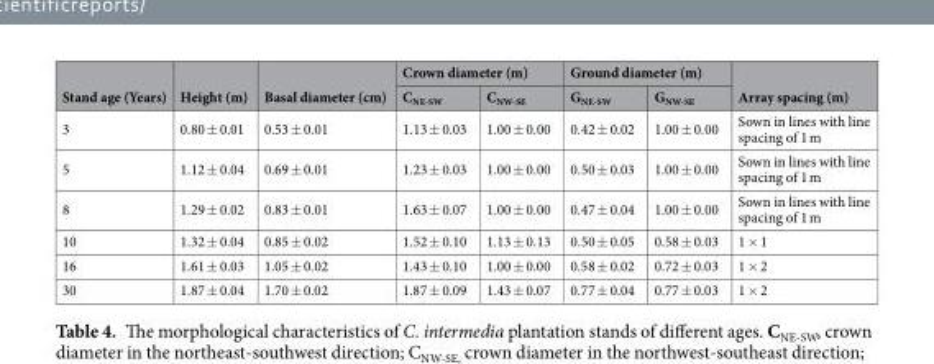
<table><thead><tr><td rowspan="2">Stand age (Years)</td><td rowspan="2">Height (m)</td><td rowspan="2">Basal diameter (cm)</td><td colspan="2">Crown diameter (m)</td><td colspan="2">Ground diameter (m)</td><td rowspan="2">Array spacing (m)</td></tr><tr><td>C<sub>NE-SW</sub></td><td>C<sub>NW-SE</sub></td><td>G<sub>NE-SW</sub></td><td>G<sub>NW-SE</sub></td></tr></thead><tbody><tr><td>3</td><td>0.80 ± 0.01</td><td>0.53 ± 0.01</td><td>1.13 ± 0.03</td><td>1.00 ± 0.00</td><td>0.42 ± 0.02</td><td>1.00 ± 0.00</td><td>Sown in lines with line spacing of 1 m</td></tr><tr><td>5</td><td>1.12 ± 0.04</td><td>0.69 ± 0.01</td><td>1.23 ± 0.03</td><td>1.00 ± 0.00</td><td>0.50 ± 0.03</td><td>1.00 ± 0.00</td><td>Sown in lines with line spacing of 1 m</td></tr><tr><td>8</td><td>1.29 ± 0.02</td><td>0.83 ± 0.01</td><td>1.63 ± 0.07</td><td>1.00 ± 0.00</td><td>0.47 ± 0.04</td><td>1.00 ± 0.00</td><td>Sown in lines with line spacing of 1 m</td></tr><tr><td>10</td><td>1.32 ± 0.04</td><td>0.85 ± 0.02</td><td>1.52 ± 0.10</td><td>1.13 ± 0.13</td><td>0.50 ± 0.05</td><td>0.58 ± 0.03</td><td>1 × 1</td></tr><tr><td>16</td><td>1.61 ± 0.03</td><td>1.05 ± 0.02</td><td>1.43 ± 0.10</td><td>1.00 ± 0.00</td><td>0.58 ± 0.02</td><td>0.72 ± 0.03</td><td>1 × 2</td></tr><tr><td>30</td><td>1.87 ± 0.04</td><td>1.70 ± 0.02</td><td>1.87 ± 0.09</td><td>1.43 ± 0.07</td><td>0.77 ± 0.04</td><td>0.77 ± 0.03</td><td>1 × 2</td></tr></tbody></table>